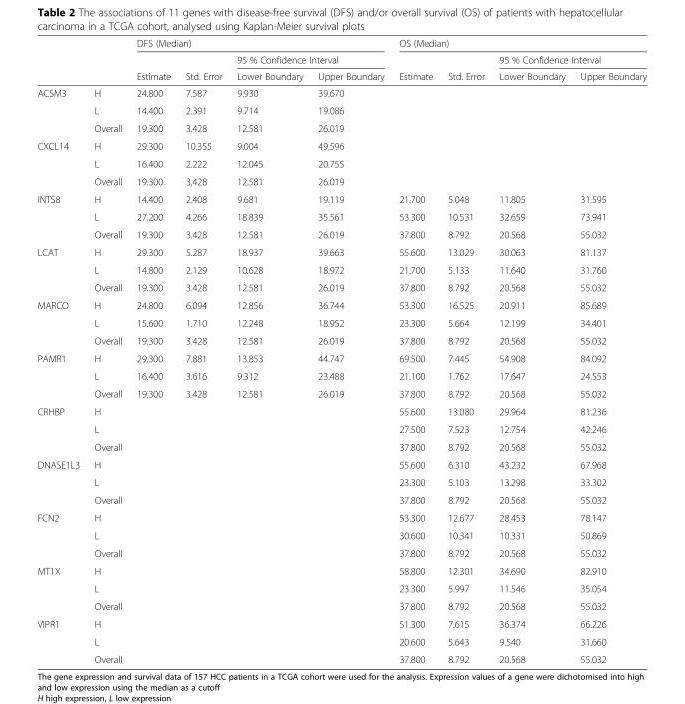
<table><thead><tr><td rowspan="3"></td><td rowspan="3"></td><td colspan="4">DFS (Median)</td><td colspan="4">OS (Median)</td></tr><tr><td rowspan="2">Estimate</td><td rowspan="2">Std. Error</td><td colspan="2">95 % Confidence Interval</td><td rowspan="2">Estimate</td><td rowspan="2">Std. Error</td><td colspan="2">95 % Confidence Interval</td></tr><tr><td>Lower Boundary</td><td>Upper Boundary</td><td>Lower Boundary</td><td>Upper Boundary</td></tr></thead><tbody><tr><td rowspan="3">ACSM3</td><td>H</td><td>24.800</td><td>7.587</td><td>9.930</td><td>39.670</td><td></td><td></td><td></td><td></td></tr><tr><td>L</td><td>14.400</td><td>2.391</td><td>9.714</td><td>19.086</td><td></td><td></td><td></td><td></td></tr><tr><td>Overall</td><td>19.300</td><td>3.428</td><td>12.581</td><td>26.019</td><td></td><td></td><td></td><td></td></tr><tr><td rowspan="3">CXCL14</td><td>H</td><td>29.300</td><td>10.355</td><td>9.004</td><td>49.596</td><td></td><td></td><td></td><td></td></tr><tr><td>L</td><td>16.400</td><td>2.222</td><td>12.045</td><td>20.755</td><td></td><td></td><td></td><td></td></tr><tr><td>Overall</td><td>19.300</td><td>3.428</td><td>12.581</td><td>26.019</td><td></td><td></td><td></td><td></td></tr><tr><td rowspan="3">INTS8</td><td>H</td><td>14.400</td><td>2.408</td><td>9.681</td><td>19.119</td><td>21.700</td><td>5.048</td><td>11.805</td><td>31.595</td></tr><tr><td>L</td><td>27.200</td><td>4.266</td><td>18.839</td><td>35.561</td><td>53.300</td><td>10.531</td><td>32.659</td><td>73.941</td></tr><tr><td>Overall</td><td>19.300</td><td>3.428</td><td>12.581</td><td>26.019</td><td>37.800</td><td>8.792</td><td>20.568</td><td>55.032</td></tr><tr><td rowspan="3">LCAT</td><td>H</td><td>29.300</td><td>5.287</td><td>18.937</td><td>39.663</td><td>55.600</td><td>13.029</td><td>30.063</td><td>81.137</td></tr><tr><td>L</td><td>14.800</td><td>2.129</td><td>10.628</td><td>18.972</td><td>21.700</td><td>5.133</td><td>11.640</td><td>31.760</td></tr><tr><td>Overall</td><td>19.300</td><td>3.428</td><td>12.581</td><td>26.019</td><td>37.800</td><td>8.792</td><td>20.568</td><td>55.032</td></tr><tr><td rowspan="3">MARCO</td><td>H</td><td>24.800</td><td>6.094</td><td>12.856</td><td>36.744</td><td>53.300</td><td>16.525</td><td>20.911</td><td>85.689</td></tr><tr><td>L</td><td>15.600</td><td>1.710</td><td>12.248</td><td>18.952</td><td>23.300</td><td>5.664</td><td>12.199</td><td>34.401</td></tr><tr><td>Overall</td><td>19.300</td><td>3.428</td><td>12.581</td><td>26.019</td><td>37.800</td><td>8.792</td><td>20.568</td><td>55.032</td></tr><tr><td rowspan="3">PAMR1</td><td>H</td><td>29.300</td><td>7.881</td><td>13.853</td><td>44.747</td><td>69.500</td><td>7.445</td><td>54.908</td><td>84.092</td></tr><tr><td>L</td><td>16.400</td><td>3.616</td><td>9.312</td><td>23.488</td><td>21.100</td><td>1.762</td><td>17.647</td><td>24.553</td></tr><tr><td>Overall</td><td>19.300</td><td>3.428</td><td>12.581</td><td>26.019</td><td>37.800</td><td>8.792</td><td>20.568</td><td>55.032</td></tr><tr><td rowspan="3">CRHBP</td><td>H</td><td></td><td></td><td></td><td></td><td>55.600</td><td>13.080</td><td>29.964</td><td>81.236</td></tr><tr><td>L</td><td></td><td></td><td></td><td></td><td>27.500</td><td>7.523</td><td>12.754</td><td>42.246</td></tr><tr><td>Overall</td><td></td><td></td><td></td><td></td><td>37.800</td><td>8.792</td><td>20.568</td><td>55.032</td></tr><tr><td rowspan="3">DNASE1L3</td><td>H</td><td></td><td></td><td></td><td></td><td>55.600</td><td>6.310</td><td>43.232</td><td>67.968</td></tr><tr><td>L</td><td></td><td></td><td></td><td></td><td>23.300</td><td>5.103</td><td>13.298</td><td>33.302</td></tr><tr><td>Overall</td><td></td><td></td><td></td><td></td><td>37.800</td><td>8.792</td><td>20.568</td><td>55.032</td></tr><tr><td rowspan="3">FCN2</td><td>H</td><td></td><td></td><td></td><td></td><td>53.300</td><td>12.677</td><td>28.453</td><td>78.147</td></tr><tr><td>L</td><td></td><td></td><td></td><td></td><td>30.600</td><td>10.341</td><td>10.331</td><td>50.869</td></tr><tr><td>Overall</td><td></td><td></td><td></td><td></td><td>37.800</td><td>8.792</td><td>20.568</td><td>55.032</td></tr><tr><td rowspan="3">MT1X</td><td>H</td><td></td><td></td><td></td><td></td><td>58.800</td><td>12.301</td><td>34.690</td><td>82.910</td></tr><tr><td>L</td><td></td><td></td><td></td><td></td><td>23.300</td><td>5.997</td><td>11.546</td><td>35.054</td></tr><tr><td>Overall</td><td></td><td></td><td></td><td></td><td>37.800</td><td>8.792</td><td>20.568</td><td>55.032</td></tr><tr><td rowspan="3">VIPR1</td><td>H</td><td></td><td></td><td></td><td></td><td>51.300</td><td>7.615</td><td>36.374</td><td>66.226</td></tr><tr><td>L</td><td></td><td></td><td></td><td></td><td>20.600</td><td>5.643</td><td>9.540</td><td>31.660</td></tr><tr><td>Overall</td><td></td><td></td><td></td><td></td><td>37.800</td><td>8.792</td><td>20.568</td><td>55.032</td></tr></tbody></table>